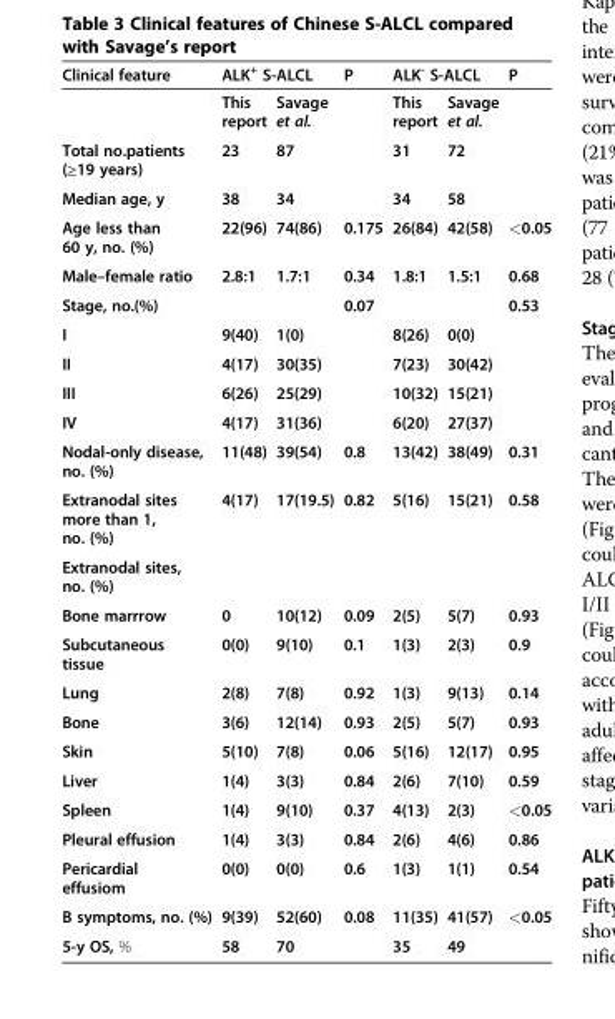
<table><thead><tr><td rowspan="2">Clinical feature</td><td colspan="2">ALK<sup>+</sup> S-ALCL</td><td rowspan="2">P</td><td colspan="2">ALK<sup>-</sup> S-ALCL</td><td rowspan="2">P</td></tr><tr><td>This report</td><td>Savage et al.</td><td>This report</td><td>Savage et al.</td></tr></thead><tbody><tr><td>Total no.patients (≥19 years)</td><td>23</td><td>87</td><td></td><td>31</td><td>72</td><td></td></tr><tr><td>Median age, y</td><td>38</td><td>34</td><td></td><td>34</td><td>58</td><td></td></tr><tr><td>Age less than 60 y, no. (%)</td><td>22(96)</td><td>74(86)</td><td>0.175</td><td>26(84)</td><td>42(58)</td><td>&lt;0.05</td></tr><tr><td>Male–female ratio</td><td>2.8:1</td><td>1.7:1</td><td>0.34</td><td>1.8:1</td><td>1.5:1</td><td>0.68</td></tr><tr><td>Stage, no.(%)</td><td></td><td></td><td>0.07</td><td></td><td></td><td>0.53</td></tr><tr><td>I</td><td>9(40)</td><td>1(0)</td><td></td><td>8(26)</td><td>0(0)</td><td></td></tr><tr><td>II</td><td>4(17)</td><td>30(35)</td><td></td><td>7(23)</td><td>30(42)</td><td></td></tr><tr><td>III</td><td>6(26)</td><td>25(29)</td><td></td><td>10(32)</td><td>15(21)</td><td></td></tr><tr><td>IV</td><td>4(17)</td><td>31(36)</td><td></td><td>6(20)</td><td>27(37)</td><td></td></tr><tr><td>Nodal-only disease, no. (%)</td><td>11(48)</td><td>39(54)</td><td>0.8</td><td>13(42)</td><td>38(49)</td><td>0.31</td></tr><tr><td>Extranodal sites more than 1, no. (%)</td><td>4(17)</td><td>17(19.5)</td><td>0.82</td><td>5(16)</td><td>15(21)</td><td>0.58</td></tr><tr><td colspan="7">Extranodal sites, no. (%)</td></tr><tr><td>Bone marrrow</td><td>0</td><td>10(12)</td><td>0.09</td><td>2(5)</td><td>5(7)</td><td>0.93</td></tr><tr><td>Subcutaneous tissue</td><td>0(0)</td><td>9(10)</td><td>0.1</td><td>1(3)</td><td>2(3)</td><td>0.9</td></tr><tr><td>Lung</td><td>2(8)</td><td>7(8)</td><td>0.92</td><td>1(3)</td><td>9(13)</td><td>0.14</td></tr><tr><td>Bone</td><td>3(6)</td><td>12(14)</td><td>0.93</td><td>2(5)</td><td>5(7)</td><td>0.93</td></tr><tr><td>Skin</td><td>5(10)</td><td>7(8)</td><td>0.06</td><td>5(16)</td><td>12(17)</td><td>0.95</td></tr><tr><td>Liver</td><td>1(4)</td><td>3(3)</td><td>0.84</td><td>2(6)</td><td>7(10)</td><td>0.59</td></tr><tr><td>Spleen</td><td>1(4)</td><td>9(10)</td><td>0.37</td><td>4(13)</td><td>2(3)</td><td>&lt;0.05</td></tr><tr><td>Pleural effusion</td><td>1(4)</td><td>3(3)</td><td>0.84</td><td>2(6)</td><td>4(6)</td><td>0.86</td></tr><tr><td>Pericardial effusiom</td><td>0(0)</td><td>0(0)</td><td>0.6</td><td>1(3)</td><td>1(1)</td><td>0.54</td></tr><tr><td>B symptoms, no. (%)</td><td>9(39)</td><td>52(60)</td><td>0.08</td><td>11(35)</td><td>41(57)</td><td>&lt;0.05</td></tr><tr><td>5-y OS, %</td><td>58</td><td>70</td><td></td><td>35</td><td>49</td><td></td></tr></tbody></table>